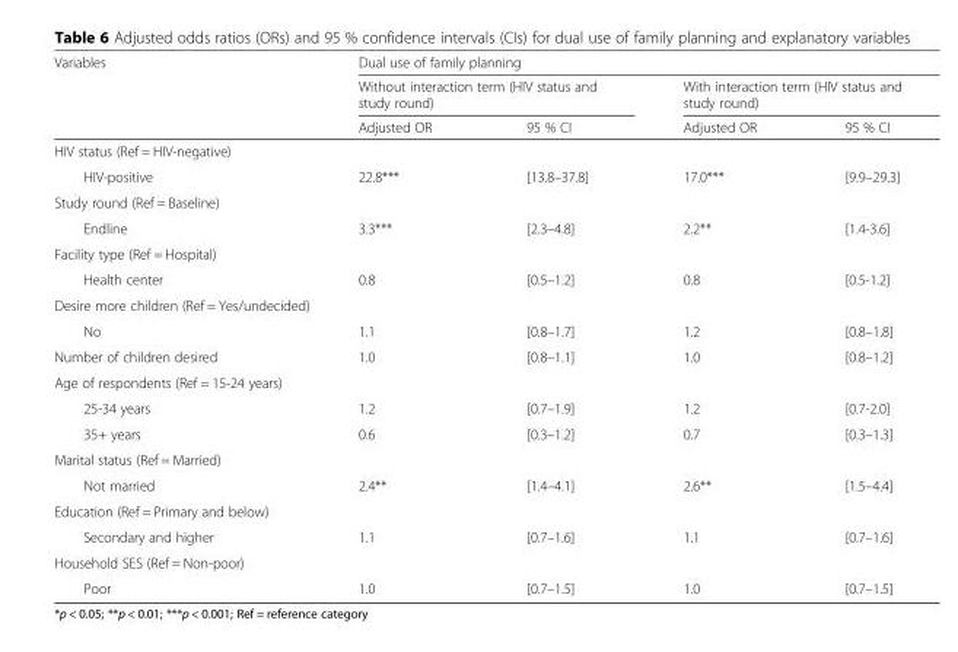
<table><thead><tr><td rowspan="3">Variables</td><td colspan="4">Dual use of family planning</td></tr><tr><td colspan="2">Without interaction term (HIV status and study round)</td><td colspan="2">With interaction term (HIV status and study round)</td></tr><tr><td>Adjusted OR</td><td>95 % CI</td><td>Adjusted OR</td><td>95 % CI</td></tr></thead><tbody><tr><td colspan="5">HIV status (Ref = HIV-negative)</td></tr><tr><td>HIV-positive</td><td>22.8***</td><td>[13.8–37.8]</td><td>17.0***</td><td>[9.9–29.3]</td></tr><tr><td colspan="5">Study round (Ref = Baseline)</td></tr><tr><td>Endline</td><td>3.3***</td><td>[2.3–4.8]</td><td>2.2**</td><td>[1.4-3.6]</td></tr><tr><td colspan="5">Facility type (Ref = Hospital)</td></tr><tr><td>Health center</td><td>0.8</td><td>[0.5–1.2]</td><td>0.8</td><td>[0.5-1.2]</td></tr><tr><td colspan="5">Desire more children (Ref = Yes/undecided)</td></tr><tr><td>No</td><td>1.1</td><td>[0.8–1.7]</td><td>1.2</td><td>[0.8–1.8]</td></tr><tr><td>Number of children desired</td><td>1.0</td><td>[0.8–1.1]</td><td>1.0</td><td>[0.8–1.2]</td></tr><tr><td colspan="5">Age of respondents (Ref = 15-24 years)</td></tr><tr><td>25-34 years</td><td>1.2</td><td>[0.7–1.9]</td><td>1.2</td><td>[0.7-2.0]</td></tr><tr><td>35+ years</td><td>0.6</td><td>[0.3–1.2]</td><td>0.7</td><td>[0.3–1.3]</td></tr><tr><td colspan="5">Marital status (Ref = Married)</td></tr><tr><td>Not married</td><td>2.4**</td><td>[1.4–4.1]</td><td>2.6**</td><td>[1.5–4.4]</td></tr><tr><td colspan="5">Education (Ref = Primary and below)</td></tr><tr><td>Secondary and higher</td><td>1.1</td><td>[0.7–1.6]</td><td>1.1</td><td>[0.7–1.6]</td></tr><tr><td colspan="5">Household SES (Ref = Non-poor)</td></tr><tr><td>Poor</td><td>1.0</td><td>[0.7–1.5]</td><td>1.0</td><td>[0.7–1.5]</td></tr></tbody></table>